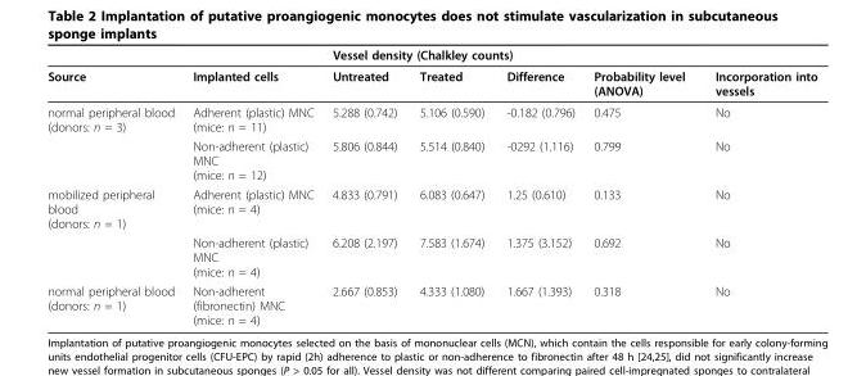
<table><thead><tr><td rowspan="2">Source</td><td rowspan="2">Implanted cells</td><td colspan="3">Vessel density (Chalkley counts)</td><td rowspan="2">Probability level (ANOVA)</td><td rowspan="2">Incorporation into vessels</td></tr><tr><td>Untreated</td><td>Treated</td><td>Difference</td></tr></thead><tbody><tr><td rowspan="2">normal peripheral blood (donors: n = 3)</td><td>Adherent (plastic) MNC (mice: n = 11)</td><td>5.288 (0.742)</td><td>5.106 (0.590)</td><td>-0.182 (0.796)</td><td>0.475</td><td>No</td></tr><tr><td>Non-adherent (plastic) MNC (mice: n = 12)</td><td>5.806 (0.844)</td><td>5.514 (0.840)</td><td>-0292 (1.116)</td><td>0.799</td><td>No</td></tr><tr><td rowspan="2">mobilized peripheral blood (donors: n = 1)</td><td>Adherent (plastic) MNC (mice: n = 4)</td><td>4.833 (0.791)</td><td>6.083 (0.647)</td><td>1.25 (0.610)</td><td>0.133</td><td>No</td></tr><tr><td>Non-adherent (plastic) MNC (mice: n = 4)</td><td>6.208 (2.197)</td><td>7.583 (1.674)</td><td>1.375 (3.152)</td><td>0.692</td><td>No</td></tr><tr><td>normal peripheral blood (donors: n = 1)</td><td>Non-adherent (fibronectin) MNC (mice: n = 4)</td><td>2.667 (0.853)</td><td>4.333 (1.080)</td><td>1.667 (1.393)</td><td>0.318</td><td>No</td></tr></tbody></table>